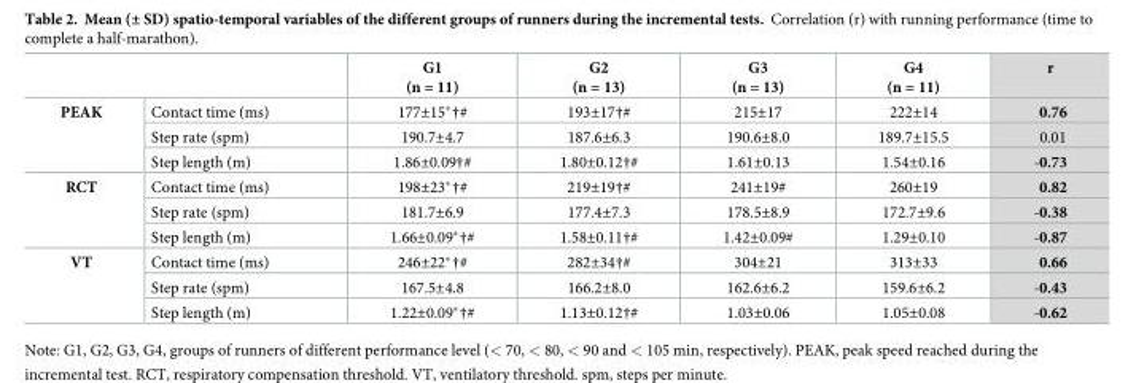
<table><thead><tr><td></td><td></td><td>G1 (n = 11)</td><td>G2 (n = 13)</td><td>G3 (n = 13)</td><td>G4 (n = 11)</td><td>r</td></tr></thead><tbody><tr><td rowspan="3">PEAK</td><td>Contact time (ms)</td><td>177±15*†#</td><td>193±17†#</td><td>215±17</td><td>222±14</td><td>0.76</td></tr><tr><td>Step rate (spm)</td><td>190.7±4.7</td><td>187.6±6.3</td><td>190.6±8.0</td><td>189.7±15.5</td><td>0.01</td></tr><tr><td>Step length (m)</td><td>1.86±0.09†#</td><td>1.80±0.12†#</td><td>1.61±0.13</td><td>1.54±0.16</td><td>-0.73</td></tr><tr><td rowspan="3">RCT</td><td>Contact time (ms)</td><td>198±23*†#</td><td>219±19†#</td><td>241±19#</td><td>260±19</td><td>0.82</td></tr><tr><td>Step rate (spm)</td><td>181.7±6.9</td><td>177.4±7.3</td><td>178.5±8.9</td><td>172.7±9.6</td><td>-0.38</td></tr><tr><td>Step length (m)</td><td>1.66±0.09*†#</td><td>1.58±0.11†#</td><td>1.42±0.09#</td><td>1.29±0.10</td><td>-0.87</td></tr><tr><td rowspan="3">VT</td><td>Contact time (ms)</td><td>246±22*†#</td><td>282±34†#</td><td>304±21</td><td>313±33</td><td>0.66</td></tr><tr><td>Step rate (spm)</td><td>167.5±4.8</td><td>166.2±8.0</td><td>162.6±6.2</td><td>159.6±6.2</td><td>-0.43</td></tr><tr><td>Step length (m)</td><td>1.22±0.09*†#</td><td>1.13±0.12†#</td><td>1.03±0.06</td><td>1.05±0.08</td><td>-0.62</td></tr></tbody></table>